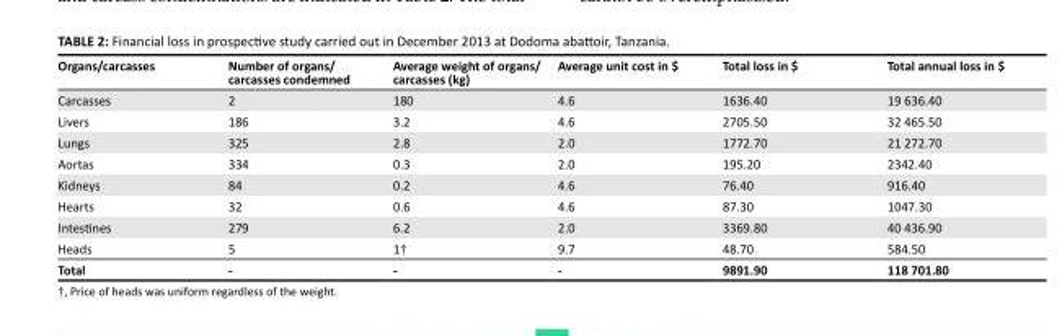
<table><thead><tr><td>Organs/carcasses</td><td>Number of organs/ carcasses condemned</td><td>Average weight of organs/ carcasses (kg)</td><td>Average unit cost in $</td><td>Total loss in $</td><td>Total annual loss in $</td></tr></thead><tbody><tr><td>Carcasses</td><td>2</td><td>180</td><td>4.6</td><td>1636.40</td><td>19 636.40</td></tr><tr><td>Livers</td><td>186</td><td>3.2</td><td>4.6</td><td>2705.50</td><td>32 465.50</td></tr><tr><td>Lungs</td><td>325</td><td>2.8</td><td>2.0</td><td>1772.70</td><td>21 272.70</td></tr><tr><td>Aortas</td><td>334</td><td>0.3</td><td>2.0</td><td>195.20</td><td>2342.40</td></tr><tr><td>Kidneys</td><td>84</td><td>0.2</td><td>4.6</td><td>76.40</td><td>916.40</td></tr><tr><td>Hearts</td><td>32</td><td>0.6</td><td>4.6</td><td>87.30</td><td>1047.30</td></tr><tr><td>Intestines</td><td>279</td><td>6.2</td><td>2.0</td><td>3369.80</td><td>40 436.90</td></tr><tr><td>Heads</td><td>5</td><td>1†</td><td>9.7</td><td>48.70</td><td>584.50</td></tr><tr><td>Total</td><td>-</td><td>-</td><td>-</td><td>9891.90</td><td>118 701.80</td></tr></tbody></table>